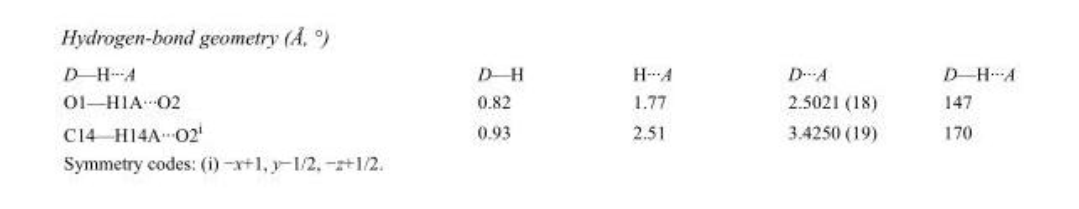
<table><tbody><tr><td>D—H···A</td><td>D—H</td><td>H···A</td><td>D···A</td><td>D—H···A</td></tr><tr><td>O1—H1A···O2</td><td>0.82</td><td>1.77</td><td>2.5021 (18)</td><td>147</td></tr><tr><td>C14—H14A···O2<sup>i</sup></td><td>0.93</td><td>2.51</td><td>3.4250 (19)</td><td>170</td></tr></tbody></table>